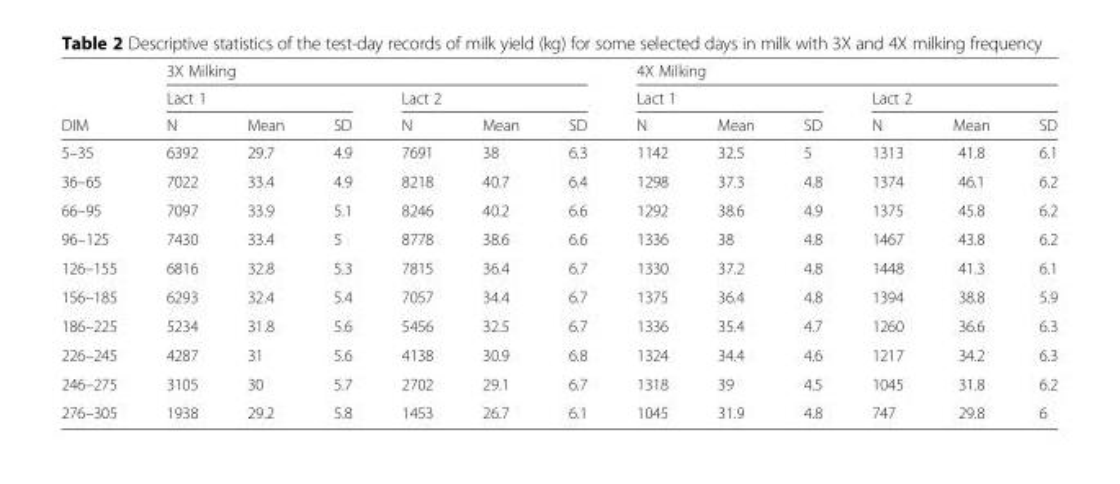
<table><thead><tr><td rowspan="3">DIM</td><td colspan="6">3X Milking</td><td colspan="6">4X Milking</td></tr><tr><td colspan="3">Lact 1</td><td colspan="3">Lact 2</td><td colspan="3">Lact 1</td><td colspan="3">Lact 2</td></tr><tr><td>N</td><td>Mean</td><td>SD</td><td>N</td><td>Mean</td><td>SD</td><td>N</td><td>Mean</td><td>SD</td><td>N</td><td>Mean</td><td>SD</td></tr></thead><tbody><tr><td>5–35</td><td>6392</td><td>29.7</td><td>4.9</td><td>7691</td><td>38</td><td>6.3</td><td>1142</td><td>32.5</td><td>5</td><td>1313</td><td>41.8</td><td>6.1</td></tr><tr><td>36–65</td><td>7022</td><td>33.4</td><td>4.9</td><td>8218</td><td>40.7</td><td>6.4</td><td>1298</td><td>37.3</td><td>4.8</td><td>1374</td><td>46.1</td><td>6.2</td></tr><tr><td>66–95</td><td>7097</td><td>33.9</td><td>5.1</td><td>8246</td><td>40.2</td><td>6.6</td><td>1292</td><td>38.6</td><td>4.9</td><td>1375</td><td>45.8</td><td>6.2</td></tr><tr><td>96–125</td><td>7430</td><td>33.4</td><td>5</td><td>8778</td><td>38.6</td><td>6.6</td><td>1336</td><td>38</td><td>4.8</td><td>1467</td><td>43.8</td><td>6.2</td></tr><tr><td>126–155</td><td>6816</td><td>32.8</td><td>5.3</td><td>7815</td><td>36.4</td><td>6.7</td><td>1330</td><td>37.2</td><td>4.8</td><td>1448</td><td>41.3</td><td>6.1</td></tr><tr><td>156–185</td><td>6293</td><td>32.4</td><td>5.4</td><td>7057</td><td>34.4</td><td>6.7</td><td>1375</td><td>36.4</td><td>4.8</td><td>1394</td><td>38.8</td><td>5.9</td></tr><tr><td>186–225</td><td>5234</td><td>31.8</td><td>5.6</td><td>5456</td><td>32.5</td><td>6.7</td><td>1336</td><td>35.4</td><td>4.7</td><td>1260</td><td>36.6</td><td>6.3</td></tr><tr><td>226–245</td><td>4287</td><td>31</td><td>5.6</td><td>4138</td><td>30.9</td><td>6.8</td><td>1324</td><td>34.4</td><td>4.6</td><td>1217</td><td>34.2</td><td>6.3</td></tr><tr><td>246–275</td><td>3105</td><td>30</td><td>5.7</td><td>2702</td><td>29.1</td><td>6.7</td><td>1318</td><td>39</td><td>4.5</td><td>1045</td><td>31.8</td><td>6.2</td></tr><tr><td>276–305</td><td>1938</td><td>29.2</td><td>5.8</td><td>1453</td><td>26.7</td><td>6.1</td><td>1045</td><td>31.9</td><td>4.8</td><td>747</td><td>29.8</td><td>6</td></tr></tbody></table>